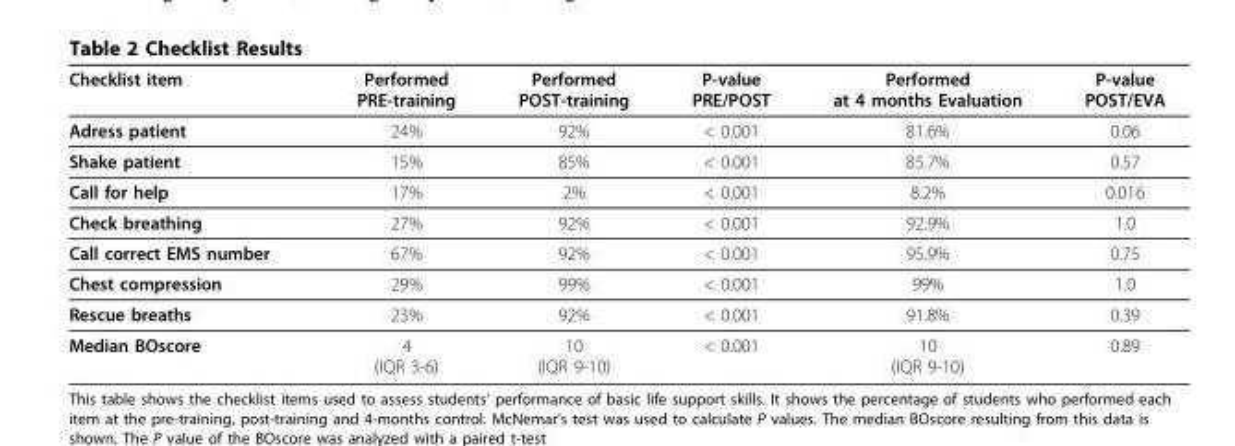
<table><thead><tr><td>Checklist item</td><td>Performed PRE-training</td><td>Performed POST-training</td><td>P-value PRE/POST</td><td>Performed at 4 months Evaluation</td><td>P-value POST/EVA</td></tr></thead><tbody><tr><td>Adress patient</td><td>24%</td><td>92%</td><td>&lt; 0.001</td><td>81.6%</td><td>0.06</td></tr><tr><td>Shake patient</td><td>15%</td><td>85%</td><td>&lt; 0.001</td><td>85.7%</td><td>0.57</td></tr><tr><td>Call for help</td><td>17%</td><td>2%</td><td>&lt; 0.001</td><td>8.2%</td><td>0.016</td></tr><tr><td>Check breathing</td><td>27%</td><td>92%</td><td>&lt; 0.001</td><td>92.9%</td><td>1.0</td></tr><tr><td>Call correct EMS number</td><td>67%</td><td>92%</td><td>&lt; 0.001</td><td>95.9%</td><td>0.75</td></tr><tr><td>Chest compression</td><td>29%</td><td>99%</td><td>&lt; 0.001</td><td>99%</td><td>1.0</td></tr><tr><td>Rescue breaths</td><td>23%</td><td>92%</td><td>&lt; 0.001</td><td>91.8%</td><td>0.39</td></tr><tr><td>Median BOscore</td><td>4 (IQR 3-6)</td><td>10 (IQR 9-10)</td><td>&lt; 0.001</td><td>10 (IQR 9-10)</td><td>0.89</td></tr></tbody></table>